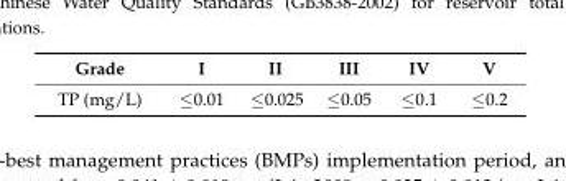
<table><thead><tr><td>Grade</td><td>I</td><td>II</td><td>III</td><td>IV</td><td>V</td></tr></thead><tbody><tr><td>TP (mg/L)</td><td>≤0.01</td><td>≤0.025</td><td>≤0.05</td><td>≤0.1</td><td>≤0.2</td></tr></tbody></table>